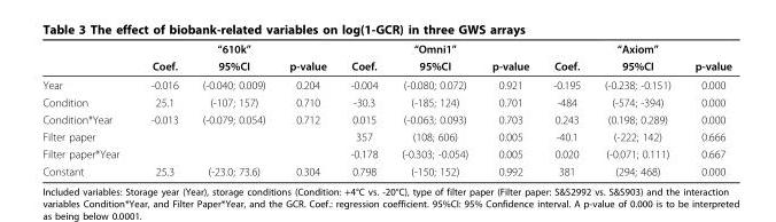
<table><thead><tr><td rowspan="2"></td><td rowspan="2">Coef.</td><td rowspan="2">“610k” 95%CI</td><td rowspan="2">p-value</td><td rowspan="2">Coef.</td><td rowspan="2">“Omni1” 95%CI</td><td rowspan="2">p-value</td><td rowspan="2">Coef.</td><td rowspan="2">“Axiom” 95%CI</td><td rowspan="2">p-value</td></tr><tr></tr></thead><tbody><tr><td>Year</td><td>-0.016</td><td>(-0.040; 0.009)</td><td>0.204</td><td>-0.004</td><td>(-0.080; 0.072)</td><td>0.921</td><td>-0.195</td><td>(-0.238; -0.151)</td><td>0.000</td></tr><tr><td>Condition</td><td>25.1</td><td>(-107; 157)</td><td>0.710</td><td>-30.3</td><td>(-185; 124)</td><td>0.701</td><td>-484</td><td>(-574; -394)</td><td>0.000</td></tr><tr><td>Condition*Year</td><td>-0.013</td><td>(-0.079; 0.054)</td><td>0.712</td><td>0.015</td><td>(-0.063; 0.093)</td><td>0.703</td><td>0.243</td><td>(0.198; 0.289)</td><td>0.000</td></tr><tr><td>Filter paper</td><td></td><td></td><td></td><td>357</td><td>(108; 606)</td><td>0.005</td><td>-40.1</td><td>(-222; 142)</td><td>0.666</td></tr><tr><td>Filter paper*Year</td><td></td><td></td><td></td><td>-0.178</td><td>(-0.303; -0.054)</td><td>0.005</td><td>0.020</td><td>(-0.071; 0.111)</td><td>0.667</td></tr><tr><td>Constant</td><td>25.3</td><td>(-23.0; 73.6)</td><td>0.304</td><td>0.798</td><td>(-150; 152)</td><td>0.992</td><td>381</td><td>(294; 468)</td><td>0.000</td></tr></tbody></table>